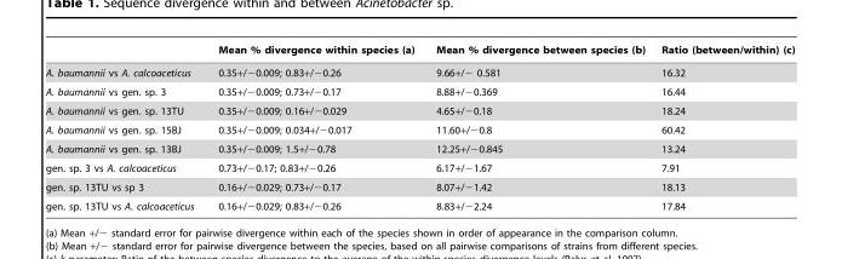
<table><thead><tr><td></td><td>Mean % divergence within species (a)</td><td>Mean % divergence between species (b)</td><td>Ratio (between/within) (c)</td></tr></thead><tbody><tr><td>A. baumannii vs A. calcoaceticus</td><td>0.35+/−0.009; 0.83+/−0.26</td><td>9.66+/− 0.581</td><td>16.32</td></tr><tr><td>A. baumannii vs gen. sp. 3</td><td>0.35+/−0.009; 0.73+/−0.17</td><td>8.88+/−0.369</td><td>16.44</td></tr><tr><td>A. baumannii vs gen. sp. 13TU</td><td>0.35+/−0.009; 0.16+/−0.029</td><td>4.65+/−0.18</td><td>18.24</td></tr><tr><td>A. baumannii vs gen. sp. 15BJ</td><td>0.35+/−0.009; 0.034+/−0.017</td><td>11.60+/−0.8</td><td>60.42</td></tr><tr><td>A. baumannii vs gen. sp. 13BJ</td><td>0.35+/−0.009; 1.5+/−0.78</td><td>12.25+/−0.845</td><td>13.24</td></tr><tr><td>gen. sp. 3 vs A. calcoaceticus</td><td>0.73+/−0.17; 0.83+/−0.26</td><td>6.17+/−1.67</td><td>7.91</td></tr><tr><td>gen. sp. 13TU vs sp 3</td><td>0.16+/−0.029; 0.73+/−0.17</td><td>8.07+/−1.42</td><td>18.13</td></tr><tr><td>gen. sp. 13TU vs A. calcoaceticus</td><td>0.16+/−0.029; 0.83+/−0.26</td><td>8.83+/−2.24</td><td>17.84</td></tr></tbody></table>